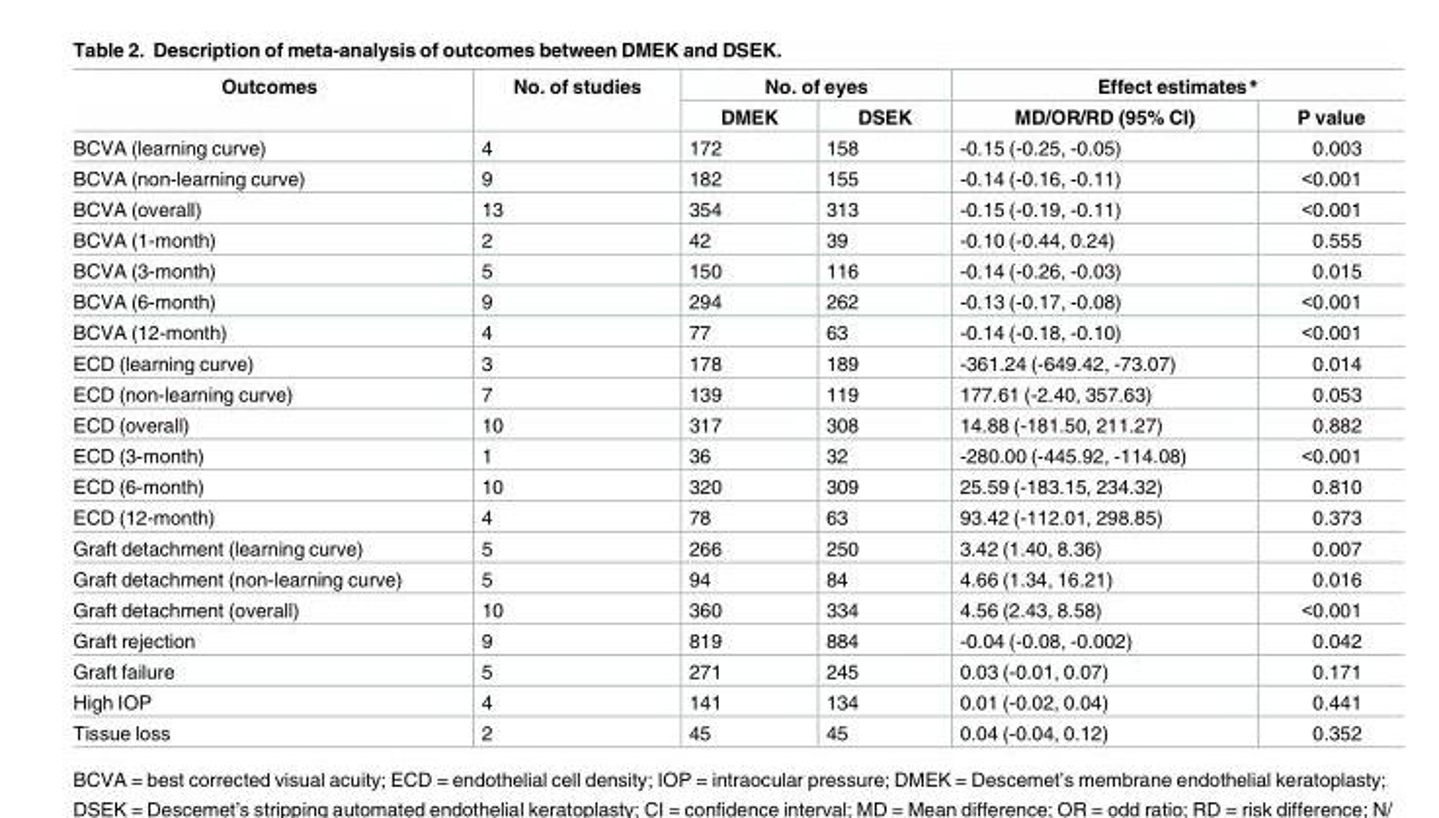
<table><thead><tr><td rowspan="2">Outcomes</td><td rowspan="2">No. of studies</td><td colspan="2">No. of eyes</td><td colspan="2">Effect estimates*</td></tr><tr><td>DMEK</td><td>DSEK</td><td>MD/OR/RD (95% CI)</td><td>P value</td></tr></thead><tbody><tr><td>BCVA (learning curve)</td><td>4</td><td>172</td><td>158</td><td>-0.15 (-0.25, -0.05)</td><td>0.003</td></tr><tr><td>BCVA (non-learning curve)</td><td>9</td><td>182</td><td>155</td><td>-0.14 (-0.16, -0.11)</td><td>&lt;0.001</td></tr><tr><td>BCVA (overall)</td><td>13</td><td>354</td><td>313</td><td>-0.15 (-0.19, -0.11)</td><td>&lt;0.001</td></tr><tr><td>BCVA (1-month)</td><td>2</td><td>42</td><td>39</td><td>-0.10 (-0.44, 0.24)</td><td>0.555</td></tr><tr><td>BCVA (3-month)</td><td>5</td><td>150</td><td>116</td><td>-0.14 (-0.26, -0.03)</td><td>0.015</td></tr><tr><td>BCVA (6-month)</td><td>9</td><td>294</td><td>262</td><td>-0.13 (-0.17, -0.08)</td><td>&lt;0.001</td></tr><tr><td>BCVA (12-month)</td><td>4</td><td>77</td><td>63</td><td>-0.14 (-0.18, -0.10)</td><td>&lt;0.001</td></tr><tr><td>ECD (learning curve)</td><td>3</td><td>178</td><td>189</td><td>-361.24 (-649.42, -73.07)</td><td>0.014</td></tr><tr><td>ECD (non-learning curve)</td><td>7</td><td>139</td><td>119</td><td>177.61 (-2.40, 357.63)</td><td>0.053</td></tr><tr><td>ECD (overall)</td><td>10</td><td>317</td><td>308</td><td>14.88 (-181.50, 211.27)</td><td>0.882</td></tr><tr><td>ECD (3-month)</td><td>1</td><td>36</td><td>32</td><td>-280.00 (-445.92, -114.08)</td><td>&lt;0.001</td></tr><tr><td>ECD (6-month)</td><td>10</td><td>320</td><td>309</td><td>25.59 (-183.15, 234.32)</td><td>0.810</td></tr><tr><td>ECD (12-month)</td><td>4</td><td>78</td><td>63</td><td>93.42 (-112.01, 298.85)</td><td>0.373</td></tr><tr><td>Graft detachment (learning curve)</td><td>5</td><td>266</td><td>250</td><td>3.42 (1.40, 8.36)</td><td>0.007</td></tr><tr><td>Graft detachment (non-learning curve)</td><td>5</td><td>94</td><td>84</td><td>4.66 (1.34, 16.21)</td><td>0.016</td></tr><tr><td>Graft detachment (overall)</td><td>10</td><td>360</td><td>334</td><td>4.56 (2.43, 8.58)</td><td>&lt;0.001</td></tr><tr><td>Graft rejection</td><td>9</td><td>819</td><td>884</td><td>-0.04 (-0.08, -0.002)</td><td>0.042</td></tr><tr><td>Graft failure</td><td>5</td><td>271</td><td>245</td><td>0.03 (-0.01, 0.07)</td><td>0.171</td></tr><tr><td>High IOP</td><td>4</td><td>141</td><td>134</td><td>0.01 (-0.02, 0.04)</td><td>0.441</td></tr><tr><td>Tissue loss</td><td>2</td><td>45</td><td>45</td><td>0.04 (-0.04, 0.12)</td><td>0.352</td></tr></tbody></table>